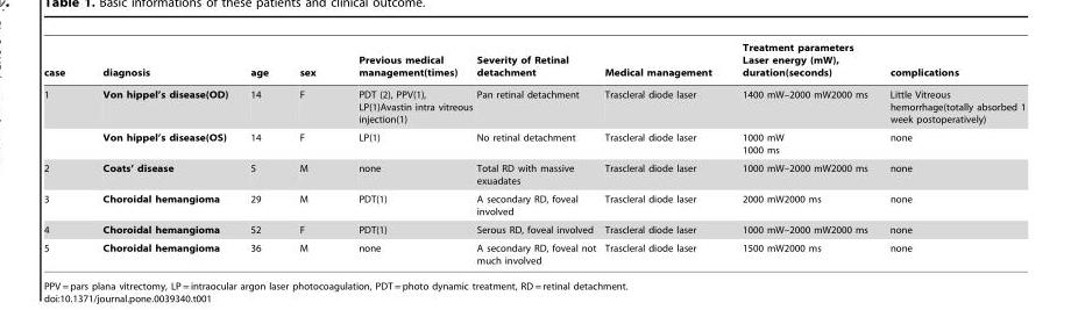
<table><thead><tr><td>case</td><td>diagnosis</td><td>age</td><td>sex</td><td>Previous medical management(times)</td><td>Severity of Retinal detachment</td><td>Medical management</td><td>Treatment parameters Laser energy (mW), duration(seconds)</td><td>complications</td></tr></thead><tbody><tr><td rowspan="2">1</td><td>Von hippel’s disease(OD)</td><td>14</td><td>F</td><td>PDT (2), PPV(1), LP(1)Avastin intra vitreous injection(1)</td><td>Pan retinal detachment</td><td>Trascleral diode laser</td><td>1400 mW–2000 mW2000 ms</td><td>Little Vitreous hemorrhage(totally absorbed 1 week postoperatively)</td></tr><tr><td>Von hippel’s disease(OS)</td><td>14</td><td>F</td><td>LP(1)</td><td>No retinal detachment</td><td>Trascleral diode laser</td><td>1000 mW 1000 ms</td><td>none</td></tr><tr><td>2</td><td>Coats’ disease</td><td>5</td><td>M</td><td>none</td><td>Total RD with massive exuadates</td><td>Trascleral diode laser</td><td>1000 mW–2000 mW2000 ms</td><td>none</td></tr><tr><td>3</td><td>Choroidal hemangioma</td><td>29</td><td>M</td><td>PDT(1)</td><td>A secondary RD, foveal involved</td><td>Trascleral diode laser</td><td>2000 mW2000 ms</td><td>none</td></tr><tr><td>4</td><td>Choroidal hemangioma</td><td>52</td><td>F</td><td>PDT(1)</td><td>Serous RD, foveal involved</td><td>Trascleral diode laser</td><td>1000 mW–2000 mW2000 ms</td><td>none</td></tr><tr><td>5</td><td>Choroidal hemangioma</td><td>36</td><td>M</td><td>none</td><td>A secondary RD, foveal not much involved</td><td>Trascleral diode laser</td><td>1500 mW2000 ms</td><td>none</td></tr></tbody></table>